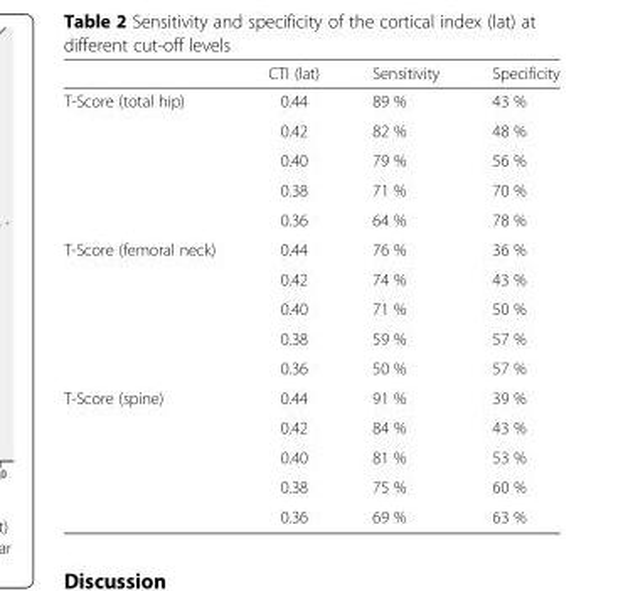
<table><thead><tr><td></td><td>CTI (lat)</td><td>Sensitivity</td><td>Specificity</td></tr></thead><tbody><tr><td rowspan="5">T-Score (total hip)</td><td>0.44</td><td>89 %</td><td>43 %</td></tr><tr><td>0.42</td><td>82 %</td><td>48 %</td></tr><tr><td>0.40</td><td>79 %</td><td>56 %</td></tr><tr><td>0.38</td><td>71 %</td><td>70 %</td></tr><tr><td>0.36</td><td>64 %</td><td>78 %</td></tr><tr><td rowspan="5">T-Score (femoral neck)</td><td>0.44</td><td>76 %</td><td>36 %</td></tr><tr><td>0.42</td><td>74 %</td><td>43 %</td></tr><tr><td>0.40</td><td>71 %</td><td>50 %</td></tr><tr><td>0.38</td><td>59 %</td><td>57 %</td></tr><tr><td>0.36</td><td>50 %</td><td>57 %</td></tr><tr><td rowspan="5">T-Score (spine)</td><td>0.44</td><td>91 %</td><td>39 %</td></tr><tr><td>0.42</td><td>84 %</td><td>43 %</td></tr><tr><td>0.40</td><td>81 %</td><td>53 %</td></tr><tr><td>0.38</td><td>75 %</td><td>60 %</td></tr><tr><td>0.36</td><td>69 %</td><td>63 %</td></tr></tbody></table>